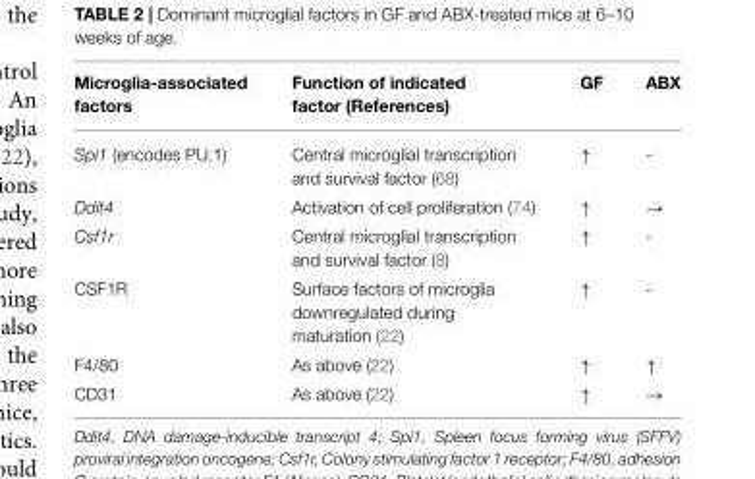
<table><thead><tr><td>Microglia-associated factors</td><td>Function of indicated factor (References)</td><td>GF</td><td>ABX</td></tr></thead><tbody><tr><td>Spi1 (encodes PU.1)</td><td>Central microglial transcription and survival factor (68)</td><td>↑</td><td>-</td></tr><tr><td>Ddit4</td><td>Activation of cell proliferation (74)</td><td>↑</td><td>→</td></tr><tr><td>Csf1r</td><td>Central microglial transcription and survival factor (8)</td><td>↑</td><td>-</td></tr><tr><td>CSF1R</td><td>Surface factors of microglia downregulated during maturation (22)</td><td>↑</td><td>-</td></tr><tr><td>F4/80</td><td>As above (22)</td><td>↑</td><td>↑</td></tr><tr><td>CD31</td><td>As above (22)</td><td>↑</td><td>→</td></tr></tbody></table>